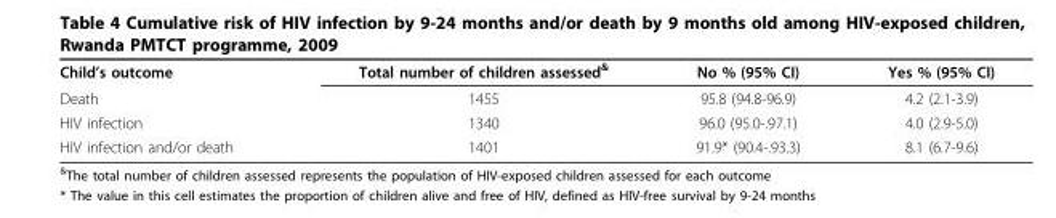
<table><tbody><tr><td>Child’s outcome</td><td>Total number of children assessed<sup>&amp;</sup></td><td>No % (95% CI)</td><td>Yes % (95% CI)</td></tr><tr><td>Death</td><td>1455</td><td>95.8 (94.8-96.9)</td><td>4.2 (2.1-3.9)</td></tr><tr><td>HIV infection</td><td>1340</td><td>96.0 (95.0-.97.1)</td><td>4.0 (2.9-5.0)</td></tr><tr><td>HIV infection and/or death</td><td>1401</td><td>91.9* (90.4-.93.3)</td><td>8.1 (6.7-9.6)</td></tr></tbody></table>